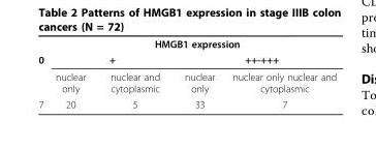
<table><thead><tr><td rowspan="3">0</td><td colspan="4">HMGB1 expression</td></tr><tr><td colspan="2">+</td><td colspan="2">++-+++</td></tr><tr><td>nuclear only</td><td>nuclear and cytoplasmic</td><td>nuclear only</td><td>nuclear only nuclear and cytoplasmic</td></tr></thead><tbody><tr><td>7</td><td>20</td><td>5</td><td>33</td><td>7</td></tr></tbody></table>